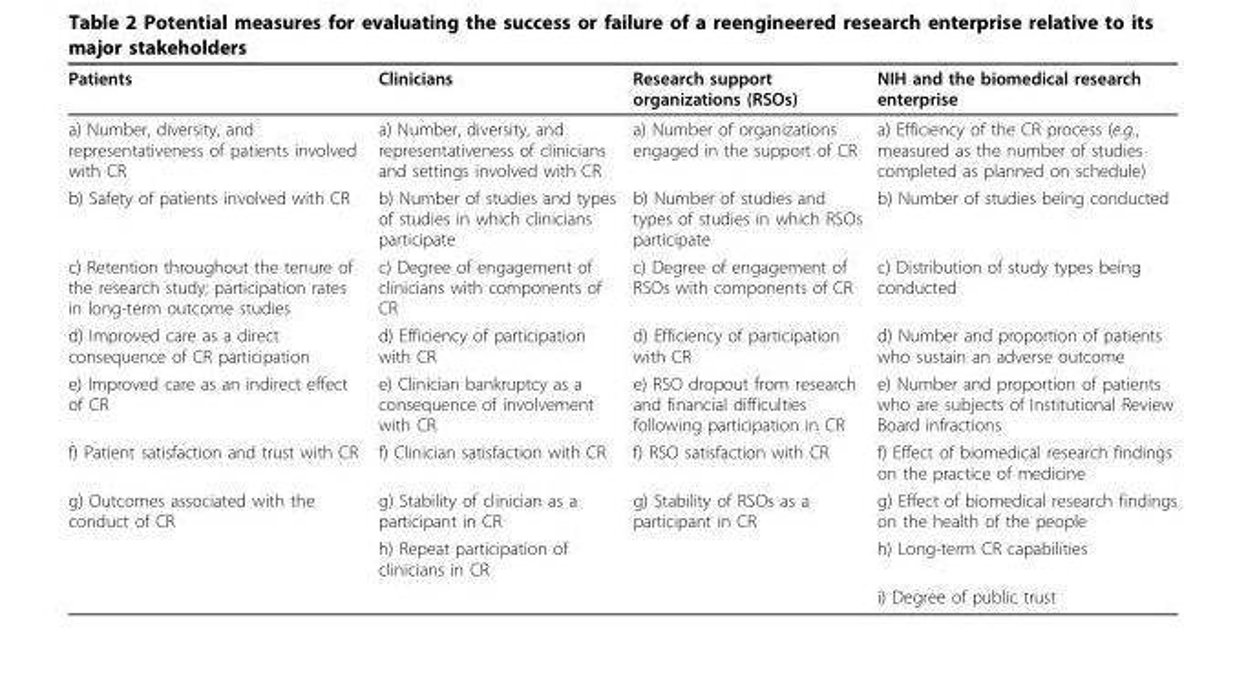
<table><thead><tr><td>Patients</td><td>Clinicians</td><td>Research support organizations (RSOs)</td><td>NIH and the biomedical research enterprise</td></tr></thead><tbody><tr><td>a) Number, diversity, and representativeness of patients involved with CR</td><td>a) Number, diversity, and representativeness of clinicians and settings involved with CR</td><td>a) Number of organizations engaged in the support of CR</td><td>a) Efficiency of the CR process (e.g., measured as the number of studies completed as planned on schedule)</td></tr><tr><td>b) Safety of patients involved with CR</td><td>b) Number of studies and types of studies in which clinicians participate</td><td>b) Number of studies and types of studies in which RSOs participate</td><td>b) Number of studies being conducted</td></tr><tr><td>c) Retention throughout the tenure of the research study; participation rates in long-term outcome studies</td><td>c) Degree of engagement of clinicians with components of CR</td><td>c) Degree of engagement of RSOs with components of CR</td><td>c) Distribution of study types being conducted</td></tr><tr><td>d) Improved care as a direct consequence of CR participation</td><td>d) Efficiency of participation with CR</td><td>d) Efficiency of participation with CR</td><td>d) Number and proportion of patients who sustain an adverse outcome</td></tr><tr><td>e) Improved care as an indirect effect of CR</td><td>e) Clinician bankruptcy as a consequence of involvement with CR</td><td>e) RSO dropout from research and financial difficulties following participation in CR</td><td>e) Number and proportion of patients who are subjects of Institutional Review Board infractions</td></tr><tr><td>f) Patient satisfaction and trust with CR</td><td>f) Clinician satisfaction with CR</td><td>f) RSO satisfaction with CR</td><td>f) Effect of biomedical research findings on the practice of medicine</td></tr><tr><td rowspan="3">g) Outcomes associated with the conduct of CR</td><td>g) Stability of clinician as a participant in CR</td><td>g) Stability of RSOs as a participant in CR</td><td>g) Effect of biomedical research findings on the health of the people</td></tr><tr><td>h) Repeat participation of clinicians in CR</td><td></td><td>h) Long-term CR capabilities</td></tr><tr><td></td><td></td><td>i) Degree of public trust</td></tr></tbody></table>